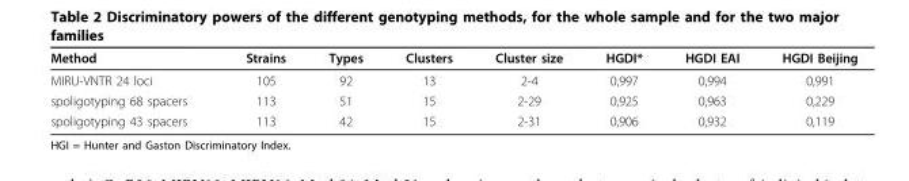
<table><thead><tr><td>Method</td><td>Strains</td><td>Types</td><td>Clusters</td><td>Cluster size</td><td>HGDI*</td><td>HGDI EAI</td><td>HGDI Beijing</td></tr></thead><tbody><tr><td>MIRU-VNTR 24 loci</td><td>105</td><td>92</td><td>13</td><td>2-4</td><td>0,997</td><td>0,994</td><td>0,991</td></tr><tr><td>spoligotyping 68 spacers</td><td>113</td><td>51</td><td>15</td><td>2-29</td><td>0,925</td><td>0,963</td><td>0,229</td></tr><tr><td>spoligotyping 43 spacers</td><td>113</td><td>42</td><td>15</td><td>2-31</td><td>0,906</td><td>0,932</td><td>0,119</td></tr></tbody></table>